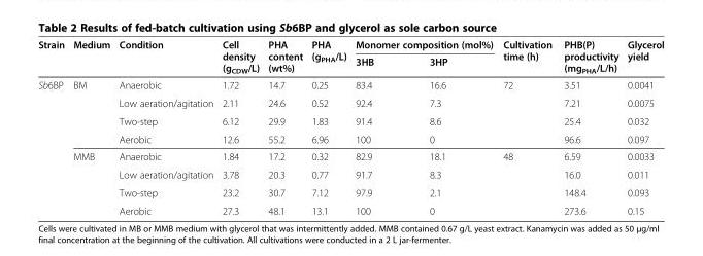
<table><thead><tr><td rowspan="2">Strain</td><td rowspan="2">Medium</td><td rowspan="2">Condition</td><td rowspan="2">Cell density (g<sub>CDW</sub>/L)</td><td rowspan="2">PHA content (wt%)</td><td rowspan="2">PHA (g<sub>PHA</sub>/L)</td><td colspan="2">Monomer composition (mol%)</td><td rowspan="2">Cultivation time (h)</td><td rowspan="2">PHB(P) productivity (mg<sub>PHA</sub>/L/h)</td><td rowspan="2">Glycerol yield</td></tr><tr><td>3HB</td><td>3HP</td></tr></thead><tbody><tr><td rowspan="8">Sb6BP</td><td rowspan="4">BM</td><td>Anaerobic</td><td>1.72</td><td>14.7</td><td>0.25</td><td>83.4</td><td>16.6</td><td rowspan="4">72</td><td>3.51</td><td>0.0041</td></tr><tr><td>Low aeration/agitation</td><td>2.11</td><td>24.6</td><td>0.52</td><td>92.4</td><td>7.3</td><td>7.21</td><td>0.0075</td></tr><tr><td>Two-step</td><td>6.12</td><td>29.9</td><td>1.83</td><td>91.4</td><td>8.6</td><td>25.4</td><td>0.032</td></tr><tr><td>Aerobic</td><td>12.6</td><td>55.2</td><td>6.96</td><td>100</td><td>0</td><td>96.6</td><td>0.097</td></tr><tr><td rowspan="4">MMB</td><td>Anaerobic</td><td>1.84</td><td>17.2</td><td>0.32</td><td>82.9</td><td>18.1</td><td rowspan="4">48</td><td>6.59</td><td>0.0033</td></tr><tr><td>Low aeration/agitation</td><td>3.78</td><td>20.3</td><td>0.77</td><td>91.7</td><td>8.3</td><td>16.0</td><td>0.011</td></tr><tr><td>Two-step</td><td>23.2</td><td>30.7</td><td>7.12</td><td>97.9</td><td>2.1</td><td>148.4</td><td>0.093</td></tr><tr><td>Aerobic</td><td>27.3</td><td>48.1</td><td>13.1</td><td>100</td><td>0</td><td>273.6</td><td>0.15</td></tr></tbody></table>